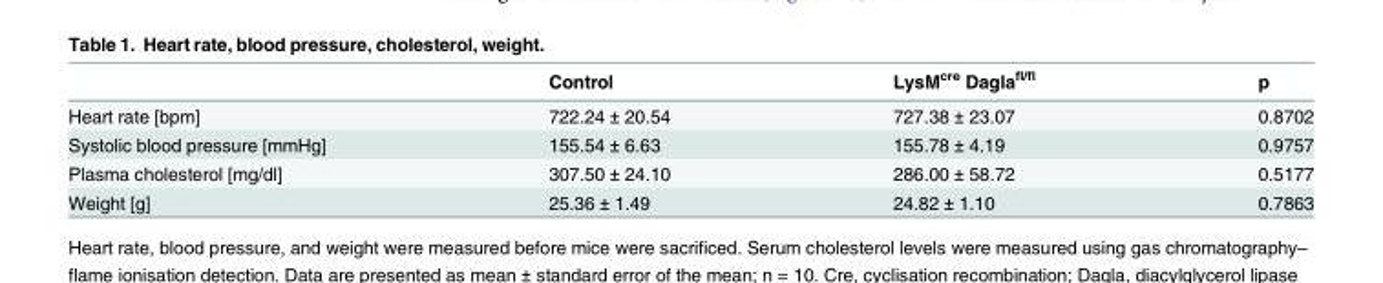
<table><thead><tr><td></td><td>Control</td><td>LysM<sup>cre</sup> Dagla<sup>fl/fl</sup></td><td>p</td></tr></thead><tbody><tr><td>Heart rate [bpm]</td><td>722.24 ± 20.54</td><td>727.38 ± 23.07</td><td>0.8702</td></tr><tr><td>Systolic blood pressure [mmHg]</td><td>155.54 ± 6.63</td><td>155.78 ± 4.19</td><td>0.9757</td></tr><tr><td>Plasma cholesterol [mg/dl]</td><td>307.50 ± 24.10</td><td>286.00 ± 58.72</td><td>0.5177</td></tr><tr><td>Weight [g]</td><td>25.36 ± 1.49</td><td>24.82 ± 1.10</td><td>0.7863</td></tr></tbody></table>